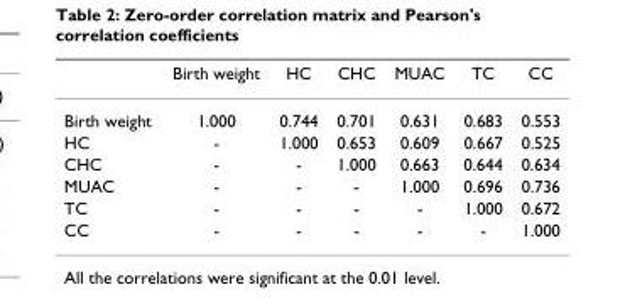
<table><thead><tr><td></td><td>Birth weight</td><td>HC</td><td>CHC</td><td>MUAC</td><td>TC</td><td>CC</td></tr></thead><tbody><tr><td>Birth weight</td><td>1.000</td><td>0.744</td><td>0.701</td><td>0.631</td><td>0.683</td><td>0.553</td></tr><tr><td>HC</td><td>-</td><td>1.000</td><td>0.653</td><td>0.609</td><td>0.667</td><td>0.525</td></tr><tr><td>CHC</td><td>-</td><td>-</td><td>1.000</td><td>0.663</td><td>0.644</td><td>0.634</td></tr><tr><td>MUAC</td><td>-</td><td>-</td><td>-</td><td>1.000</td><td>0.696</td><td>0.736</td></tr><tr><td>TC</td><td>-</td><td>-</td><td>-</td><td>-</td><td>1.000</td><td>0.672</td></tr><tr><td>CC</td><td>-</td><td>-</td><td>-</td><td>-</td><td>-</td><td>1.000</td></tr></tbody></table>